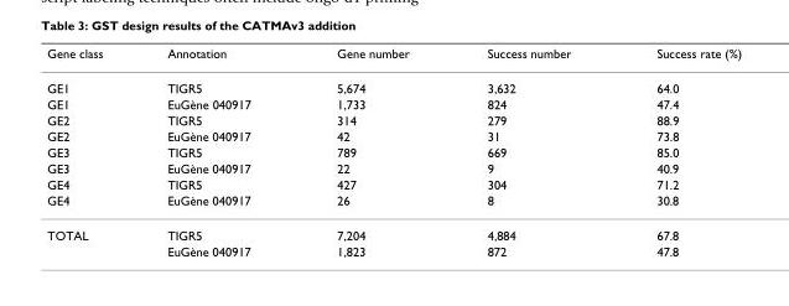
<table><thead><tr><td>Gene class</td><td>Annotation</td><td>Gene number</td><td>Success number</td><td>Success rate (%)</td></tr></thead><tbody><tr><td>GE1</td><td>TIGR5</td><td>5,674</td><td>3,632</td><td>64.0</td></tr><tr><td>GE1</td><td>EuGène 040917</td><td>1,733</td><td>824</td><td>47.4</td></tr><tr><td>GE2</td><td>TIGR5</td><td>314</td><td>279</td><td>88.9</td></tr><tr><td>GE2</td><td>EuGène 040917</td><td>42</td><td>31</td><td>73.8</td></tr><tr><td>GE3</td><td>TIGR5</td><td>789</td><td>669</td><td>85.0</td></tr><tr><td>GE3</td><td>EuGène 040917</td><td>22</td><td>9</td><td>40.9</td></tr><tr><td>GE4</td><td>TIGR5</td><td>427</td><td>304</td><td>71.2</td></tr><tr><td>GE4</td><td>EuGène 040917</td><td>26</td><td>8</td><td>30.8</td></tr><tr><td rowspan="2">TOTAL</td><td>TIGR5</td><td>7,204</td><td>4,884</td><td>67.8</td></tr><tr><td>EuGène 040917</td><td>1,823</td><td>872</td><td>47.8</td></tr></tbody></table>